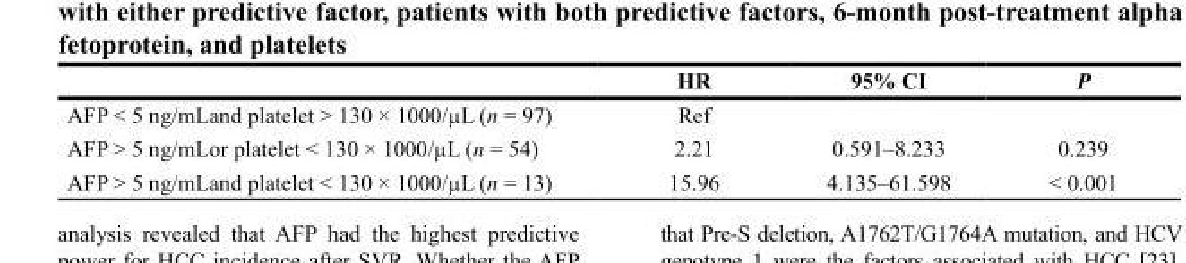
<table><thead><tr><td></td><td>HR</td><td>95% CI</td><td>P</td></tr></thead><tbody><tr><td>AFP &lt; 5 ng/mLand platelet &gt; 130 × 1000/µL (n = 97)</td><td>Ref</td><td></td><td></td></tr><tr><td>AFP &gt; 5 ng/mLor platelet &lt; 130 × 1000/µL (n = 54)</td><td>2.21</td><td>0.591–8.233</td><td>0.239</td></tr><tr><td>AFP &gt; 5 ng/mLand platelet &lt; 130 × 1000/µL (n = 13)</td><td>15.96</td><td>4.135–61.598</td><td>&lt; 0.001</td></tr></tbody></table>